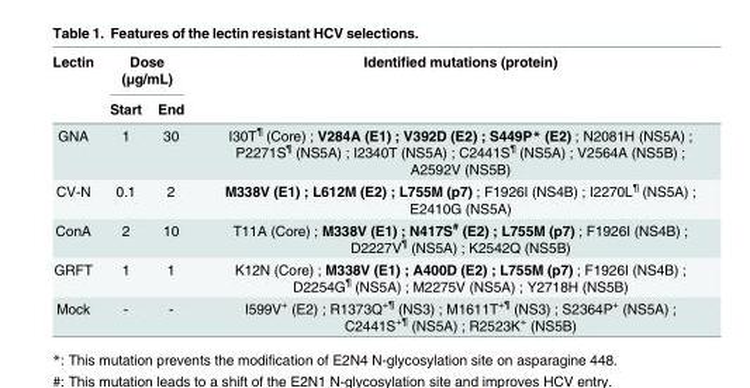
<table><thead><tr><td rowspan="2">Lectin</td><td colspan="2">Dose (μg/mL)</td><td rowspan="2">Identified mutations (protein)</td></tr><tr><td>Start</td><td>End</td></tr></thead><tbody><tr><td>GNA</td><td>1</td><td>30</td><td>I30T<sup>¶</sup> (Core) ; V284A (E1) ; V392D (E2) ; S449P* (E2) ; N2081H (NS5A) ; P2271S<sup>¶</sup> (NS5A) ; I2340T (NS5A) ; C2441S<sup>¶</sup> (NS5A) ; V2564A (NS5B) ; A2592V (NS5B)</td></tr><tr><td>CV-N</td><td>0.1</td><td>2</td><td>M338V (E1) ; L612M (E2) ; L755M (p7) ; F1926I (NS4B) ; I2270L<sup>¶</sup> (NS5A) ; E2410G (NS5A)</td></tr><tr><td>ConA</td><td>2</td><td>10</td><td>T11A (Core) ; M338V (E1) ; N417S<sup>#</sup> (E2) ; L755M (p7) ; F1926I (NS4B) ; D2227V<sup>¶</sup> (NS5A) ; K2542Q (NS5B)</td></tr><tr><td>GRFT</td><td>1</td><td>1</td><td>K12N (Core) ; M338V (E1) ; A400D (E2) ; L755M (p7) ; F1926I (NS4B) ; D2254G<sup>¶</sup> (NS5A) ; M2275V (NS5A) ; Y2718H (NS5B)</td></tr><tr><td>Mock</td><td>-</td><td>-</td><td>I599V<sup>+</sup> (E2) ; R1373Q<sup>+¶</sup> (NS3) ; M1611T<sup>+¶</sup> (NS3) ; S2364P<sup>+</sup> (NS5A) ; C2441S<sup>+¶</sup> (NS5A) ; R2523K<sup>+</sup> (NS5B)</td></tr></tbody></table>